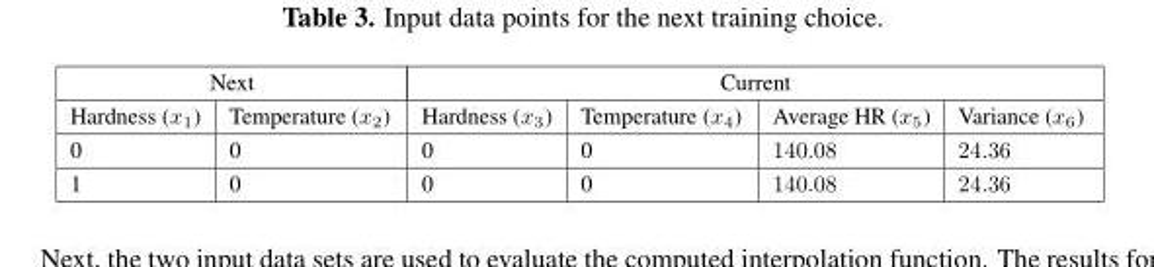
<table><thead><tr><td colspan="2">Next</td><td colspan="4">Current</td></tr><tr><td>Hardness (x<sub>1</sub>)</td><td>Temperature (x<sub>2</sub>)</td><td>Hardness (x<sub>3</sub>)</td><td>Temperature (x<sub>4</sub>)</td><td>Average HR (x<sub>5</sub>)</td><td>Variance (x<sub>6</sub>)</td></tr></thead><tbody><tr><td>0</td><td>0</td><td>0</td><td>0</td><td>140.08</td><td>24.36</td></tr><tr><td>1</td><td>0</td><td>0</td><td>0</td><td>140.08</td><td>24.36</td></tr></tbody></table>